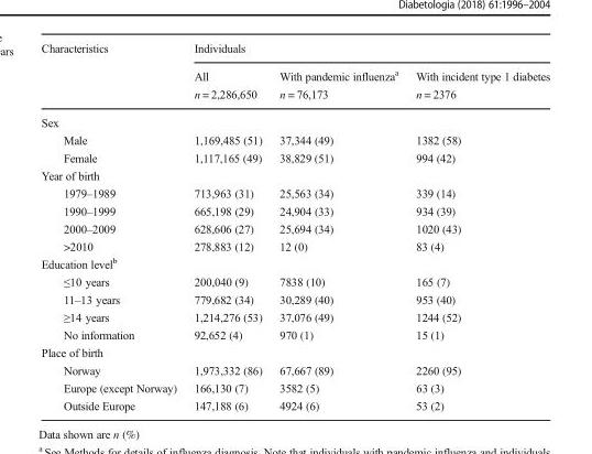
<table><thead><tr><td rowspan="2">Characteristics</td><td colspan="3">Individuals</td></tr><tr><td>All n = 2,286,650</td><td>With pandemic influenza<sup>a</sup> n = 76,173</td><td>With incident type 1 diabetes n = 2376</td></tr></thead><tbody><tr><td colspan="4">Sex</td></tr><tr><td>Male</td><td>1,169,485 (51)</td><td>37,344 (49)</td><td>1382 (58)</td></tr><tr><td>Female</td><td>1,117,165 (49)</td><td>38,829 (51)</td><td>994 (42)</td></tr><tr><td colspan="4">Year of birth</td></tr><tr><td>1979–1989</td><td>713,963 (31)</td><td>25,563 (34)</td><td>339 (14)</td></tr><tr><td>1990–1999</td><td>665,198 (29)</td><td>24,904 (33)</td><td>934 (39)</td></tr><tr><td>2000–2009</td><td>628,606 (27)</td><td>25,694 (34)</td><td>1020 (43)</td></tr><tr><td>&gt;2010</td><td>278,883 (12)</td><td>12 (0)</td><td>83 (4)</td></tr><tr><td colspan="4">Education level<sup>b</sup></td></tr><tr><td>≤10 years</td><td>200,040 (9)</td><td>7838 (10)</td><td>165 (7)</td></tr><tr><td>11–13 years</td><td>779,682 (34)</td><td>30,289 (40)</td><td>953 (40)</td></tr><tr><td>≥14 years</td><td>1,214,276 (53)</td><td>37,076 (49)</td><td>1244 (52)</td></tr><tr><td>No information</td><td>92,652 (4)</td><td>970 (1)</td><td>15 (1)</td></tr><tr><td colspan="4">Place of birth</td></tr><tr><td>Norway</td><td>1,973,332 (86)</td><td>67,667 (89)</td><td>2260 (95)</td></tr><tr><td>Europe (except Norway)</td><td>166,130 (7)</td><td>3582 (5)</td><td>63 (3)</td></tr><tr><td>Outside Europe</td><td>147,188 (6)</td><td>4924 (6)</td><td>53 (2)</td></tr></tbody></table>